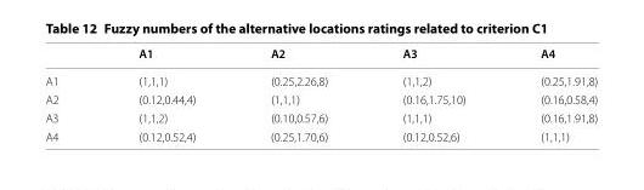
<table><thead><tr><td></td><td>A1</td><td>A2</td><td>A3</td><td>A4</td></tr></thead><tbody><tr><td>A1</td><td>(1,1,1)</td><td>(0.25,2.26,8)</td><td>(1,1,2)</td><td>(0.25,1.91,8)</td></tr><tr><td>A2</td><td>(0.12,0.44,4)</td><td>(1,1,1)</td><td>(0.16,1.75,10)</td><td>(0.16,0.58,4)</td></tr><tr><td>A3</td><td>(1,1,2)</td><td>(0.10,0.57,6)</td><td>(1,1,1)</td><td>(0.16,1.91,8)</td></tr><tr><td>A4</td><td>(0.12,0.52,4)</td><td>(0.25,1.70,6)</td><td>(0.12,0.52,6)</td><td>(1,1,1)</td></tr></tbody></table>